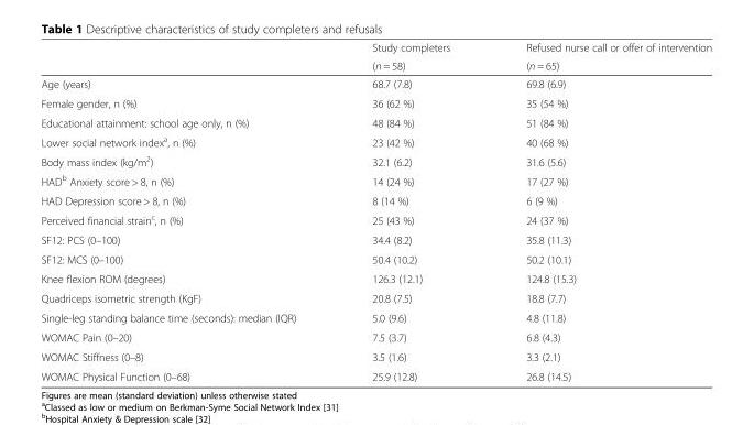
<table><thead><tr><td rowspan="2"></td><td rowspan="2">Study completers (n = 58)</td><td rowspan="2">Refused nurse call or offer of intervention (n = 65)</td></tr><tr></tr></thead><tbody><tr><td>Age (years)</td><td>68.7 (7.8)</td><td>69.8 (6.9)</td></tr><tr><td>Female gender, n (%)</td><td>36 (62 %)</td><td>35 (54 %)</td></tr><tr><td>Educational attainment: school age only, n (%)</td><td>48 (84 %)</td><td>51 (84 %)</td></tr><tr><td>Lower social network index<sup>a</sup>, n (%)</td><td>23 (42 %)</td><td>40 (68 %)</td></tr><tr><td>Body mass index (kg/m<sup>2</sup>)</td><td>32.1 (6.2)</td><td>31.6 (5.6)</td></tr><tr><td>HAD<sup>b</sup> Anxiety score &gt; 8, n (%)</td><td>14 (24 %)</td><td>17 (27 %)</td></tr><tr><td>HAD Depression score &gt; 8, n (%)</td><td>8 (14 %)</td><td>6 (9 %)</td></tr><tr><td>Perceived financial strain<sup>c</sup>, n (%)</td><td>25 (43 %)</td><td>24 (37 %)</td></tr><tr><td>SF12: PCS (0–100)</td><td>34.4 (8.2)</td><td>35.8 (11.3)</td></tr><tr><td>SF12: MCS (0–100)</td><td>50.4 (10.2)</td><td>50.2 (10.1)</td></tr><tr><td>Knee flexion ROM (degrees)</td><td>126.3 (12.1)</td><td>124.8 (15.3)</td></tr><tr><td>Quadriceps isometric strength (KgF)</td><td>20.8 (7.5)</td><td>18.8 (7.7)</td></tr><tr><td>Single-leg standing balance time (seconds): median (IQR)</td><td>5.0 (9.6)</td><td>4.8 (11.8)</td></tr><tr><td>WOMAC Pain (0–20)</td><td>7.5 (3.7)</td><td>6.8 (4.3)</td></tr><tr><td>WOMAC Stiffness (0–8)</td><td>3.5 (1.6)</td><td>3.3 (2.1)</td></tr><tr><td>WOMAC Physical Function (0–68)</td><td>25.9 (12.8)</td><td>26.8 (14.5)</td></tr></tbody></table>